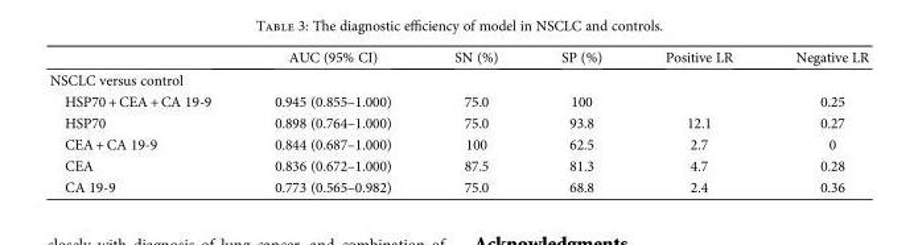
<table><thead><tr><td></td><td>AUC (95% CI)</td><td>SN (%)</td><td>SP (%)</td><td>Positive LR</td><td>Negative LR</td></tr></thead><tbody><tr><td colspan="6">NSCLC versus control</td></tr><tr><td>HSP70 + CEA + CA 19-9</td><td>0.945 (0.855–1.000)</td><td>75.0</td><td>100</td><td></td><td>0.25</td></tr><tr><td>HSP70</td><td>0.898 (0.764–1.000)</td><td>75.0</td><td>93.8</td><td>12.1</td><td>0.27</td></tr><tr><td>CEA + CA 19-9</td><td>0.844 (0.687–1.000)</td><td>100</td><td>62.5</td><td>2.7</td><td>0</td></tr><tr><td>CEA</td><td>0.836 (0.672–1.000)</td><td>87.5</td><td>81.3</td><td>4.7</td><td>0.28</td></tr><tr><td>CA 19-9</td><td>0.773 (0.565–0.982)</td><td>75.0</td><td>68.8</td><td>2.4</td><td>0.36</td></tr></tbody></table>